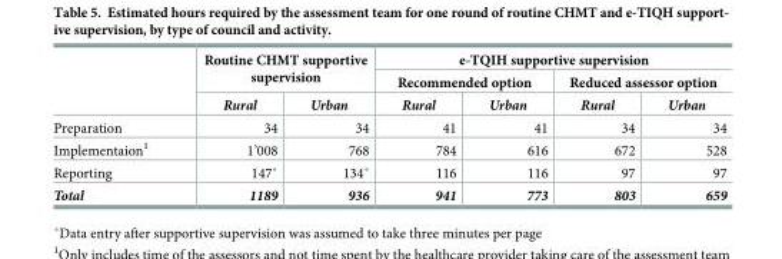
<table><thead><tr><td rowspan="3"></td><td rowspan="2" colspan="2">Routine CHMT supportive supervision</td><td colspan="4">e-TQIH supportive supervision</td></tr><tr><td colspan="2">Recommended option</td><td colspan="2">Reduced assessor option</td></tr><tr><td>Rural</td><td>Urban</td><td>Rural</td><td>Urban</td><td>Rural</td><td>Urban</td></tr></thead><tbody><tr><td>Preparation</td><td>34</td><td>34</td><td>41</td><td>41</td><td>34</td><td>34</td></tr><tr><td>Implementaion<sup>1</sup></td><td>1’008</td><td>768</td><td>784</td><td>616</td><td>672</td><td>528</td></tr><tr><td>Reporting</td><td>147˚</td><td>134˚</td><td>116</td><td>116</td><td>97</td><td>97</td></tr><tr><td>Total</td><td>1189</td><td>936</td><td>941</td><td>773</td><td>803</td><td>659</td></tr></tbody></table>